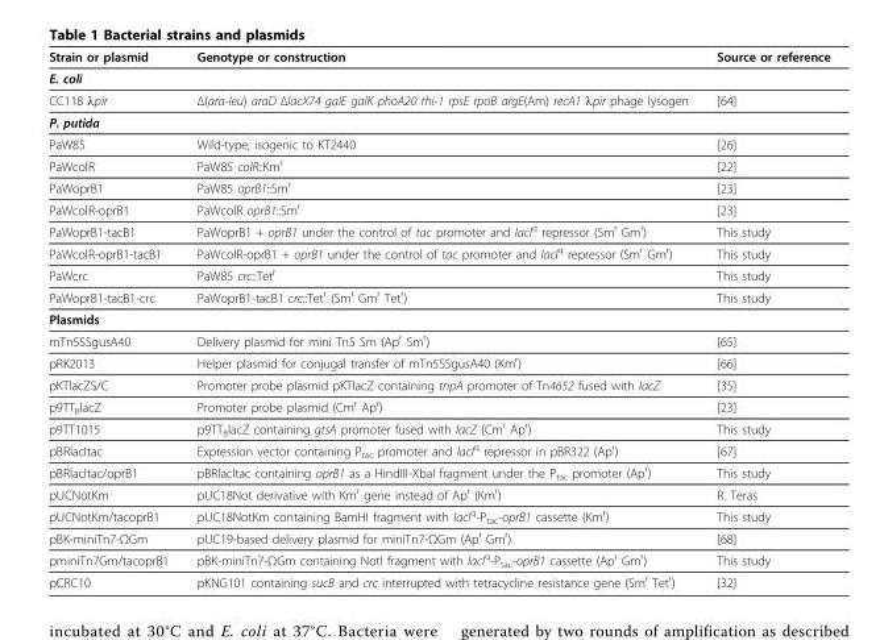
<table><thead><tr><td>Strain or plasmid</td><td>Genotype or construction</td><td>Source or reference</td></tr></thead><tbody><tr><td colspan="3">E. coli</td></tr><tr><td>CC118 λpir</td><td>Δ(ara-leu) araD ΔlacX74 galE galK phoA20 thi-1 rpsE rpoB argE(Am) recA1 λpir phage lysogen</td><td>[64]</td></tr><tr><td colspan="3">P. putida</td></tr><tr><td>PaW85</td><td>Wild-type, isogenic to KT2440</td><td>[26]</td></tr><tr><td>PaWcolR</td><td>PaW85 colR::Km<sup>r</sup></td><td>[22]</td></tr><tr><td>PaWoprB1</td><td>PaW85 oprB1::Sm<sup>r</sup></td><td>[23]</td></tr><tr><td>PaWcolR-oprB1</td><td>PaWcolR oprB1::Sm<sup>r</sup></td><td>[23]</td></tr><tr><td>PaWoprB1-tacB1</td><td>PaWoprB1 + oprB1 under the control of tac promoter and lacI<sup>q</sup> repressor (Sm<sup>r</sup> Gm<sup>r</sup>)</td><td>This study</td></tr><tr><td>PaWcolR-oprB1-tacB1</td><td>PaWcolR-oprB1 + oprB1 under the control of tac promoter and lacI<sup>q</sup> repressor (Sm<sup>r</sup> Gm<sup>r</sup>)</td><td>This study</td></tr><tr><td>PaWcrc</td><td>PaW85 crc::Tet<sup>r</sup></td><td>This study</td></tr><tr><td>PaWoprB1-tacB1-crc</td><td>PaWoprB1-tacB1 crc::Tet<sup>r</sup> (Sm<sup>r</sup> Gm<sup>r</sup> Tet<sup>r</sup>)</td><td>This study</td></tr><tr><td colspan="3">Plasmids</td></tr><tr><td>mTn5SSgusA40</td><td>Delivery plasmid for mini Tn5 Sm (Ap<sup>r</sup> Sm<sup>r</sup>)</td><td>[65]</td></tr><tr><td>pRK2013</td><td>Helper plasmid for conjugal transfer of mTn5SSgusA40 (Km<sup>r</sup>)</td><td>[66]</td></tr><tr><td>pKTlacZS/C</td><td>Promoter probe plasmid pKTlacZ containing tnpA promoter of Tn4652 fused with lacZ</td><td>[35]</td></tr><tr><td>p9TT<sub>B</sub>lacZ</td><td>Promoter probe plasmid (Cm<sup>r</sup> Ap<sup>r</sup>)</td><td>[23]</td></tr><tr><td>p9TT1015</td><td>p9TT<sub>B</sub>lacZ containing gtsA promoter fused with lacZ (Cm<sup>r</sup> Ap<sup>r</sup>)</td><td>This study</td></tr><tr><td>pBRlacItac</td><td>Expression vector containing P<sub>tac</sub> promoter and lacI<sup>q</sup> repressor in pBR322 (Ap<sup>r</sup>)</td><td>[67]</td></tr><tr><td>pBRlacItac/oprB1</td><td>pBRlacItac containing oprB1 as a HindIII-XbaI fragment under the P<sub>tac</sub> promoter (Ap<sup>r</sup>)</td><td>This study</td></tr><tr><td>pUCNotKm</td><td>pUC18Not derivative with Km<sup>r</sup> gene instead of Ap<sup>r</sup> (Km<sup>r</sup>)</td><td>R. Teras</td></tr><tr><td>pUCNotKm/tacoprB1</td><td>pUC18NotKm containing BamHI fragment with lacI<sup>q</sup>-P<sub>tac</sub>-oprB1 cassette (Km<sup>r</sup>)</td><td>This study</td></tr><tr><td>pBK-miniTn7-ΩGm</td><td>pUC19-based delivery plasmid for miniTn7-ΩGm (Ap<sup>r</sup> Gm<sup>r</sup>)</td><td>[68]</td></tr><tr><td>pminiTn7Gm/tacoprB1</td><td>pBK-miniTn7-ΩGm containing NotI fragment with lacI<sup>q</sup>-P<sub>tac</sub>-oprB1 cassette (Ap<sup>r</sup> Gm<sup>r</sup>)</td><td>This study</td></tr><tr><td>pCRC10</td><td>pKNG101 containing sucB and crc interrupted with tetracycline resistance gene (Sm<sup>r</sup> Tet<sup>r</sup>)</td><td>[32]</td></tr></tbody></table>